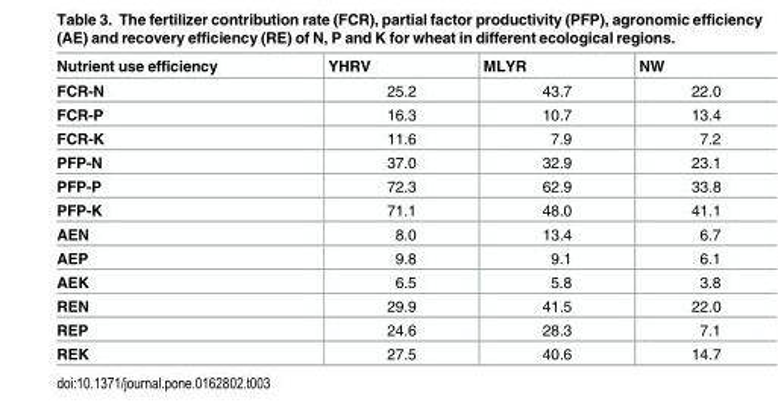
<table><thead><tr><td>Nutrient use efficiency</td><td>YHRV</td><td>MLYR</td><td>NW</td></tr></thead><tbody><tr><td>FCR-N</td><td>25.2</td><td>43.7</td><td>22.0</td></tr><tr><td>FCR-P</td><td>16.3</td><td>10.7</td><td>13.4</td></tr><tr><td>FCR-K</td><td>11.6</td><td>7.9</td><td>7.2</td></tr><tr><td>PFP-N</td><td>37.0</td><td>32.9</td><td>23.1</td></tr><tr><td>PFP-P</td><td>72.3</td><td>62.9</td><td>33.8</td></tr><tr><td>PFP-K</td><td>71.1</td><td>48.0</td><td>41.1</td></tr><tr><td>AEN</td><td>8.0</td><td>13.4</td><td>6.7</td></tr><tr><td>AEP</td><td>9.8</td><td>9.1</td><td>6.1</td></tr><tr><td>AEK</td><td>6.5</td><td>5.8</td><td>3.8</td></tr><tr><td>REN</td><td>29.9</td><td>41.5</td><td>22.0</td></tr><tr><td>REP</td><td>24.6</td><td>28.3</td><td>7.1</td></tr><tr><td>REK</td><td>27.5</td><td>40.6</td><td>14.7</td></tr></tbody></table>